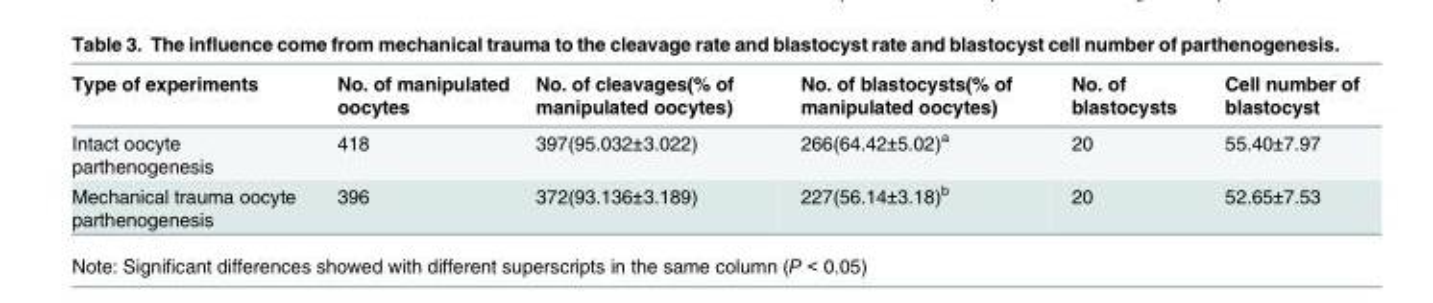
<table><thead><tr><td>Type of experiments</td><td>No. of manipulated oocytes</td><td>No. of cleavages(% of manipulated oocytes)</td><td>No. of blastocysts(% of manipulated oocytes)</td><td>No. of blastocysts</td><td>Cell number of blastocyst</td></tr></thead><tbody><tr><td>Intact oocyte parthenogenesis</td><td>418</td><td>397(95.032±3.022)</td><td>266(64.42±5.02)<sup>a</sup></td><td>20</td><td>55.40±7.97</td></tr><tr><td>Mechanical trauma oocyte parthenogenesis</td><td>396</td><td>372(93.136±3.189)</td><td>227(56.14±3.18)<sup>b</sup></td><td>20</td><td>52.65±7.53</td></tr></tbody></table>